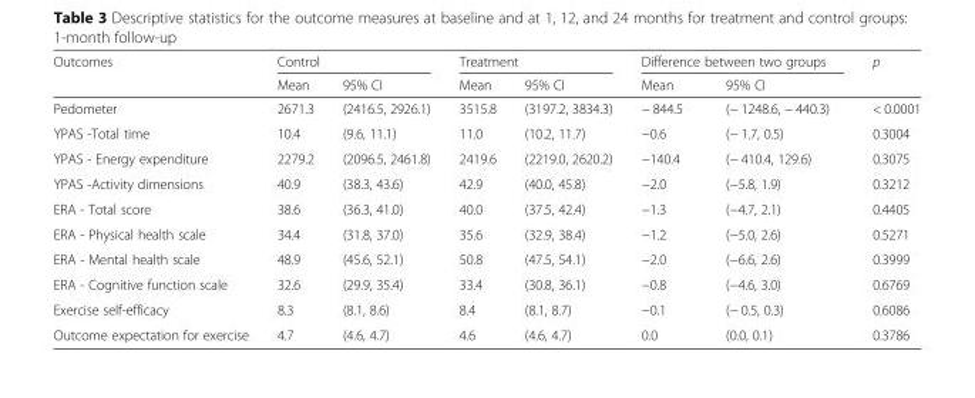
<table><thead><tr><td rowspan="2">Outcomes</td><td colspan="2">Control</td><td colspan="2">Treatment</td><td colspan="2">Difference between two groups</td><td rowspan="2">p</td></tr><tr><td>Mean</td><td>95% CI</td><td>Mean</td><td>95% CI</td><td>Mean</td><td>95% CI</td></tr></thead><tbody><tr><td>Pedometer</td><td>2671.3</td><td>(2416.5, 2926.1)</td><td>3515.8</td><td>(3197.2, 3834.3)</td><td>− 844.5</td><td>(− 1248.6, − 440.3)</td><td>&lt; 0.0001</td></tr><tr><td>YPAS -Total time</td><td>10.4</td><td>(9.6, 11.1)</td><td>11.0</td><td>(10.2, 11.7)</td><td>−0.6</td><td>(− 1.7, 0.5)</td><td>0.3004</td></tr><tr><td>YPAS - Energy expenditure</td><td>2279.2</td><td>(2096.5, 2461.8)</td><td>2419.6</td><td>(2219.0, 2620.2)</td><td>−140.4</td><td>(− 410.4, 129.6)</td><td>0.3075</td></tr><tr><td>YPAS -Activity dimensions</td><td>40.9</td><td>(38.3, 43.6)</td><td>42.9</td><td>(40.0, 45.8)</td><td>−2.0</td><td>(−5.8, 1.9)</td><td>0.3212</td></tr><tr><td>ERA - Total score</td><td>38.6</td><td>(36.3, 41.0)</td><td>40.0</td><td>(37.5, 42.4)</td><td>−1.3</td><td>(−4.7, 2.1)</td><td>0.4405</td></tr><tr><td>ERA - Physical health scale</td><td>34.4</td><td>(31.8, 37.0)</td><td>35.6</td><td>(32.9, 38.4)</td><td>−1.2</td><td>(−5.0, 2.6)</td><td>0.5271</td></tr><tr><td>ERA - Mental health scale</td><td>48.9</td><td>(45.6, 52.1)</td><td>50.8</td><td>(47.5, 54.1)</td><td>−2.0</td><td>(−6.6, 2.6)</td><td>0.3999</td></tr><tr><td>ERA - Cognitive function scale</td><td>32.6</td><td>(29.9, 35.4)</td><td>33.4</td><td>(30.8, 36.1)</td><td>−0.8</td><td>(−4.6, 3.0)</td><td>0.6769</td></tr><tr><td>Exercise self-efficacy</td><td>8.3</td><td>(8.1, 8.6)</td><td>8.4</td><td>(8.1, 8.7)</td><td>−0.1</td><td>(− 0.5, 0.3)</td><td>0.6086</td></tr><tr><td>Outcome expectation for exercise</td><td>4.7</td><td>(4.6, 4.7)</td><td>4.6</td><td>(4.6, 4.7)</td><td>0.0</td><td>(0.0, 0.1)</td><td>0.3786</td></tr></tbody></table>